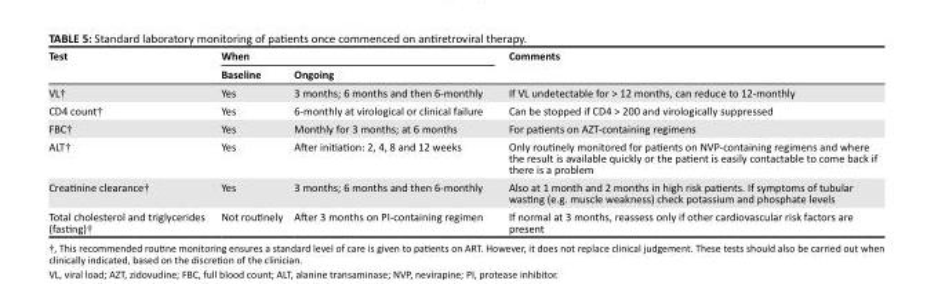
<table><thead><tr><td rowspan="2">Test</td><td colspan="2">When</td><td rowspan="2">Comments</td></tr><tr><td>Baseline</td><td>Ongoing</td></tr></thead><tbody><tr><td>VL†</td><td>Yes</td><td>3 months; 6 months and then 6-monthly</td><td>If VL undetectable for &gt; 12 months, can reduce to 12-monthly</td></tr><tr><td>CD4 count†</td><td>Yes</td><td>6-monthly at virological or clinical failure</td><td>Can be stopped if CD4 &gt; 200 and virologically suppressed</td></tr><tr><td>FBC†</td><td>Yes</td><td>Monthly for 3 months; at 6 months</td><td>For patients on AZT-containing regimens</td></tr><tr><td>ALT†</td><td>Yes</td><td>After initiation: 2, 4, 8 and 12 weeks</td><td>Only routinely monitored for patients on NVP-containing regimens and where the result is available quickly or the patient is easily contactable to come back if there is a problem</td></tr><tr><td>Creatinine clearance†</td><td>Yes</td><td>3 months; 6 months and then 6-monthly</td><td>Also at 1 month and 2 months in high risk patients. If symptoms of tubular wasting (e.g. muscle weakness) check potassium and phosphate levels</td></tr><tr><td>Total cholesterol and triglycerides (fasting)†</td><td>Not routinely</td><td>After 3 months on PI-containing regimen</td><td>If normal at 3 months, reassess only if other cardiovascular risk factors are present</td></tr></tbody></table>